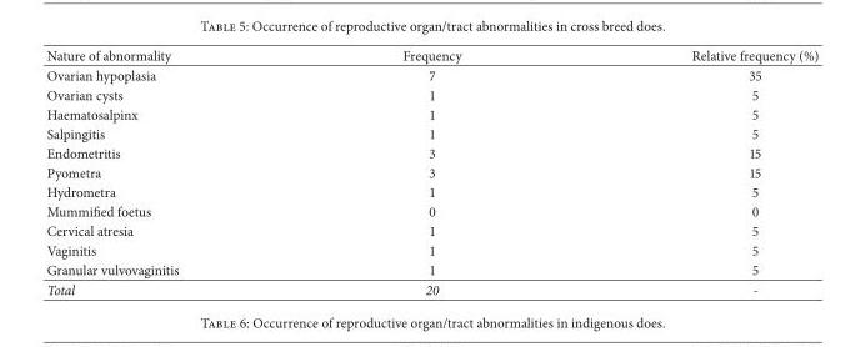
<table><thead><tr><td>Nature of abnormality</td><td>Frequency</td><td>Relative frequency (%)</td></tr></thead><tbody><tr><td>Ovarian hypoplasia</td><td>7</td><td>35</td></tr><tr><td>Ovarian cysts</td><td>1</td><td>5</td></tr><tr><td>Haematosalpinx</td><td>1</td><td>5</td></tr><tr><td>Salpingitis</td><td>1</td><td>5</td></tr><tr><td>Endometritis</td><td>3</td><td>15</td></tr><tr><td>Pyometra</td><td>3</td><td>15</td></tr><tr><td>Hydrometra</td><td>1</td><td>5</td></tr><tr><td>Mummified foetus</td><td>0</td><td>0</td></tr><tr><td>Cervical atresia</td><td>1</td><td>5</td></tr><tr><td>Vaginitis</td><td>1</td><td>5</td></tr><tr><td>Granular vulvovaginitis</td><td>1</td><td>5</td></tr><tr><td>Total</td><td>20</td><td>-</td></tr></tbody></table>